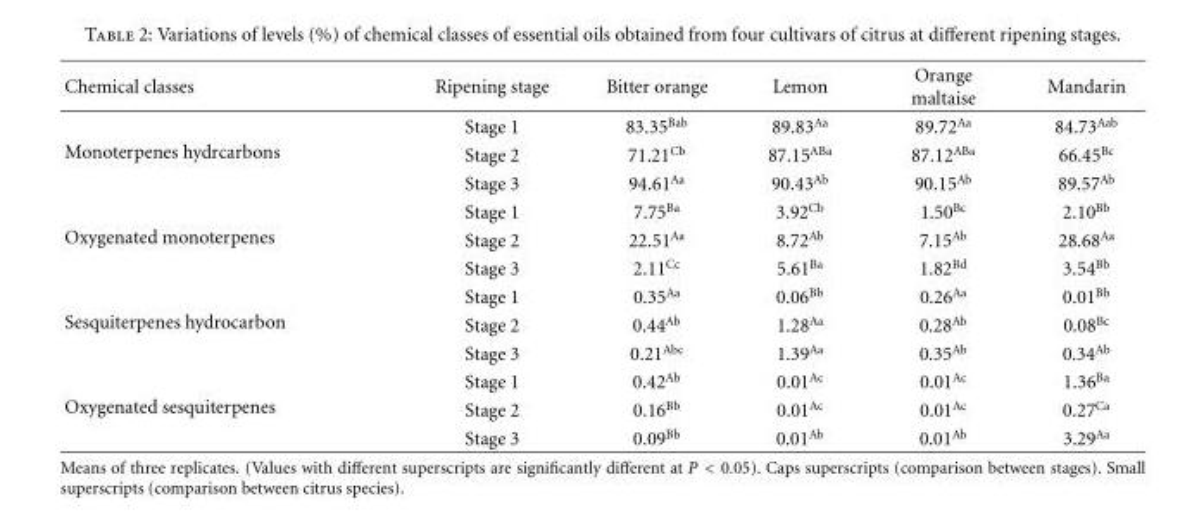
<table><thead><tr><td>Chemical classes</td><td>Ripening stage</td><td>Bitter orange</td><td>Lemon</td><td>Orange maltaise</td><td>Mandarin</td></tr></thead><tbody><tr><td rowspan="3">Monoterpenes hydrcarbons</td><td>Stage 1</td><td>83.35<sup>Bab</sup></td><td>89.83<sup>Aa</sup></td><td>89.72<sup>Aa</sup></td><td>84.73<sup>Aab</sup></td></tr><tr><td>Stage 2</td><td>71.21<sup>Cb</sup></td><td>87.15<sup>ABa</sup></td><td>87.12<sup>ABa</sup></td><td>66.45<sup>Bc</sup></td></tr><tr><td>Stage 3</td><td>94.61<sup>Aa</sup></td><td>90.43<sup>Ab</sup></td><td>90.15<sup>Ab</sup></td><td>89.57<sup>Ab</sup></td></tr><tr><td rowspan="3">Oxygenated monoterpenes</td><td>Stage 1</td><td>7.75<sup>Ba</sup></td><td>3.92<sup>Cb</sup></td><td>1.50<sup>Bc</sup></td><td>2.10<sup>Bb</sup></td></tr><tr><td>Stage 2</td><td>22.51<sup>Aa</sup></td><td>8.72<sup>Ab</sup></td><td>7.15<sup>Ab</sup></td><td>28.68<sup>Aa</sup></td></tr><tr><td>Stage 3</td><td>2.11<sup>Cc</sup></td><td>5.61<sup>Ba</sup></td><td>1.82<sup>Bd</sup></td><td>3.54<sup>Bb</sup></td></tr><tr><td rowspan="3">Sesquiterpenes hydrocarbon</td><td>Stage 1</td><td>0.35<sup>Aa</sup></td><td>0.06<sup>Bb</sup></td><td>0.26<sup>Aa</sup></td><td>0.01<sup>Bb</sup></td></tr><tr><td>Stage 2</td><td>0.44<sup>Ab</sup></td><td>1.28<sup>Aa</sup></td><td>0.28<sup>Ab</sup></td><td>0.08<sup>Bc</sup></td></tr><tr><td>Stage 3</td><td>0.21<sup>Abc</sup></td><td>1.39<sup>Aa</sup></td><td>0.35<sup>Ab</sup></td><td>0.34<sup>Ab</sup></td></tr><tr><td rowspan="3">Oxygenated sesquiterpenes</td><td>Stage 1</td><td>0.42<sup>Ab</sup></td><td>0.01<sup>Ac</sup></td><td>0.01<sup>Ac</sup></td><td>1.36<sup>Ba</sup></td></tr><tr><td>Stage 2</td><td>0.16<sup>Bb</sup></td><td>0.01<sup>Ac</sup></td><td>0.01<sup>Ac</sup></td><td>0.27<sup>Ca</sup></td></tr><tr><td>Stage 3</td><td>0.09<sup>Bb</sup></td><td>0.01<sup>Ab</sup></td><td>0.01<sup>Ab</sup></td><td>3.29<sup>Aa</sup></td></tr></tbody></table>